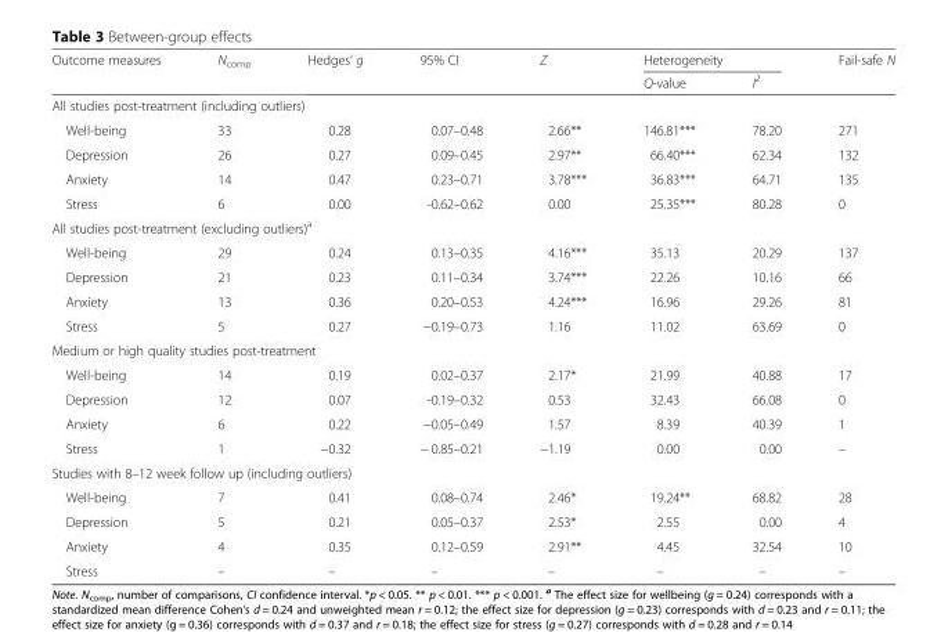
<table><thead><tr><td rowspan="2">Outcome measures</td><td rowspan="2">N<sub>comp</sub></td><td rowspan="2">Hedges’ g</td><td rowspan="2">95% CI</td><td rowspan="2">Z</td><td colspan="2">Heterogeneity</td><td rowspan="2">Fail-safe N</td></tr><tr><td>Q-value</td><td>I<sup>2</sup></td></tr></thead><tbody><tr><td colspan="8">All studies post-treatment (including outliers)</td></tr><tr><td>Well-being</td><td>33</td><td>0.28</td><td>0.07–0.48</td><td>2.66**</td><td>146.81***</td><td>78.20</td><td>271</td></tr><tr><td>Depression</td><td>26</td><td>0.27</td><td>0.09–0.45</td><td>2.97**</td><td>66.40***</td><td>62.34</td><td>132</td></tr><tr><td>Anxiety</td><td>14</td><td>0.47</td><td>0.23–0.71</td><td>3.78***</td><td>36.83***</td><td>64.71</td><td>135</td></tr><tr><td>Stress</td><td>6</td><td>0.00</td><td>-0.62–0.62</td><td>0.00</td><td>25.35***</td><td>80.28</td><td>0</td></tr><tr><td colspan="8">All studies post-treatment (excluding outliers)<sup>a</sup></td></tr><tr><td>Well-being</td><td>29</td><td>0.24</td><td>0.13–0.35</td><td>4.16***</td><td>35.13</td><td>20.29</td><td>137</td></tr><tr><td>Depression</td><td>21</td><td>0.23</td><td>0.11–0.34</td><td>3.74***</td><td>22.26</td><td>10.16</td><td>66</td></tr><tr><td>Anxiety</td><td>13</td><td>0.36</td><td>0.20–0.53</td><td>4.24***</td><td>16.96</td><td>29.26</td><td>81</td></tr><tr><td>Stress</td><td>5</td><td>0.27</td><td>−0.19–0.73</td><td>1.16</td><td>11.02</td><td>63.69</td><td>0</td></tr><tr><td colspan="8">Medium or high quality studies post-treatment</td></tr><tr><td>Well-being</td><td>14</td><td>0.19</td><td>0.02–0.37</td><td>2.17*</td><td>21.99</td><td>40.88</td><td>17</td></tr><tr><td>Depression</td><td>12</td><td>0.07</td><td>-0.19–0.32</td><td>0.53</td><td>32.43</td><td>66.08</td><td>0</td></tr><tr><td>Anxiety</td><td>6</td><td>0.22</td><td>−0.05–0.49</td><td>1.57</td><td>8.39</td><td>40.39</td><td>1</td></tr><tr><td>Stress</td><td>1</td><td>−0.32</td><td>− 0.85–0.21</td><td>−1.19</td><td>0.00</td><td>0.00</td><td>–</td></tr><tr><td colspan="8">Studies with 8–12 week follow up (including outliers)</td></tr><tr><td>Well-being</td><td>7</td><td>0.41</td><td>0.08–0.74</td><td>2.46*</td><td>19.24**</td><td>68.82</td><td>28</td></tr><tr><td>Depression</td><td>5</td><td>0.21</td><td>0.05–0.37</td><td>2.53*</td><td>2.55</td><td>0.00</td><td>4</td></tr><tr><td>Anxiety</td><td>4</td><td>0.35</td><td>0.12–0.59</td><td>2.91**</td><td>4.45</td><td>32.54</td><td>10</td></tr><tr><td>Stress</td><td>–</td><td>–</td><td>–</td><td>–</td><td>–</td><td>–</td><td>–</td></tr></tbody></table>